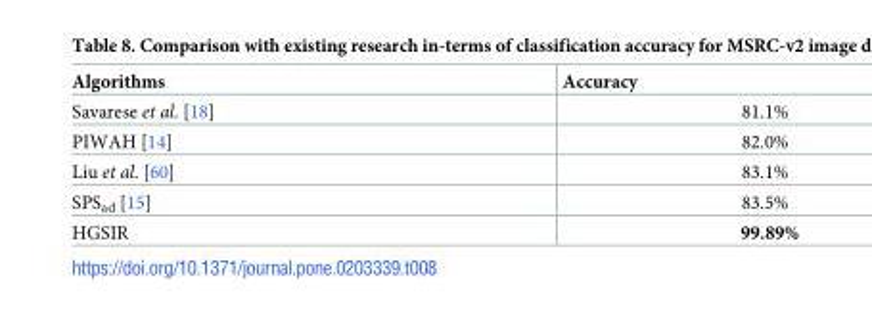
<table><thead><tr><td>Algorithms</td><td>Accuracy</td></tr></thead><tbody><tr><td>Savarese et al. [18]</td><td>81.1%</td></tr><tr><td>PIWAH [14]</td><td>82.0%</td></tr><tr><td>Liu et al. [60]</td><td>83.1%</td></tr><tr><td>SPS<sub>ad</sub> [15]</td><td>83.5%</td></tr><tr><td>HGSIR</td><td>99.89%</td></tr></tbody></table>